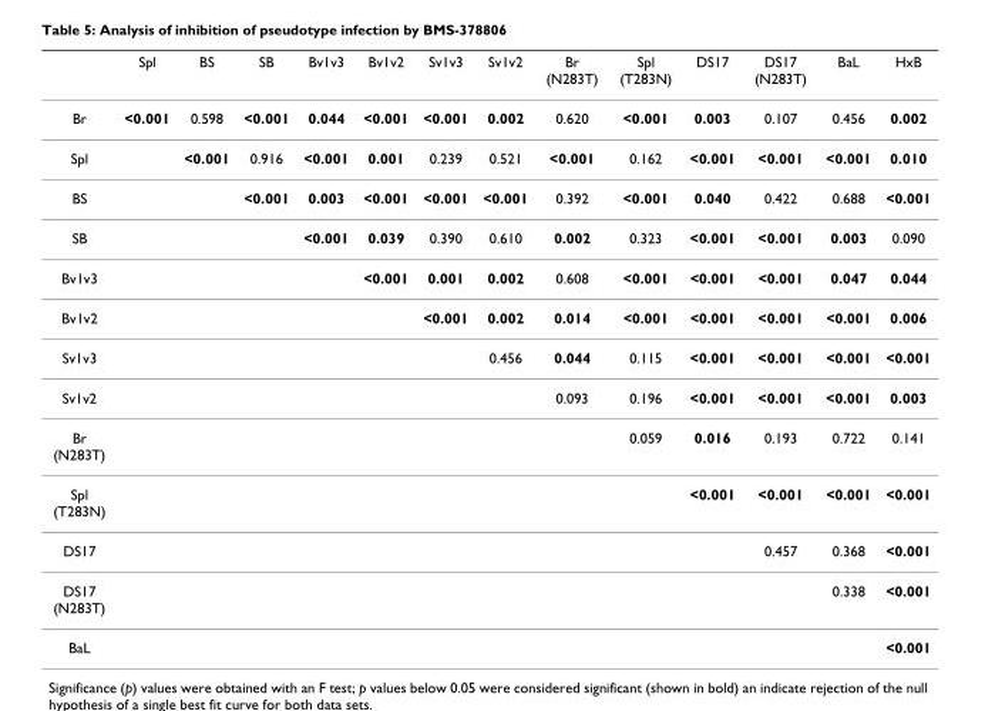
<table><thead><tr><td></td><td>Spl</td><td>BS</td><td>SB</td><td>Bv1v3</td><td>Bv1v2</td><td>Sv1v3</td><td>Sv1v2</td><td>Br (N283T)</td><td>Spl (T283N)</td><td>DS17</td><td>DS17 (N283T)</td><td>BaL</td><td>HxB</td></tr></thead><tbody><tr><td>Br</td><td>&lt;0.001</td><td>0.598</td><td>&lt;0.001</td><td>0.044</td><td>&lt;0.001</td><td>&lt;0.001</td><td>0.002</td><td>0.620</td><td>&lt;0.001</td><td>0.003</td><td>0.107</td><td>0.456</td><td>0.002</td></tr><tr><td>Spl</td><td></td><td>&lt;0.001</td><td>0.916</td><td>&lt;0.001</td><td>0.001</td><td>0.239</td><td>0.521</td><td>&lt;0.001</td><td>0.162</td><td>&lt;0.001</td><td>&lt;0.001</td><td>&lt;0.001</td><td>0.010</td></tr><tr><td>BS</td><td></td><td></td><td>&lt;0.001</td><td>0.003</td><td>&lt;0.001</td><td>&lt;0.001</td><td>&lt;0.001</td><td>0.392</td><td>&lt;0.001</td><td>0.040</td><td>0.422</td><td>0.688</td><td>&lt;0.001</td></tr><tr><td>SB</td><td></td><td></td><td></td><td>&lt;0.001</td><td>0.039</td><td>0.390</td><td>0.610</td><td>0.002</td><td>0.323</td><td>&lt;0.001</td><td>&lt;0.001</td><td>0.003</td><td>0.090</td></tr><tr><td>Bv1v3</td><td></td><td></td><td></td><td></td><td>&lt;0.001</td><td>0.001</td><td>0.002</td><td>0.608</td><td>&lt;0.001</td><td>&lt;0.001</td><td>&lt;0.001</td><td>0.047</td><td>0.044</td></tr><tr><td>Bv1v2</td><td></td><td></td><td></td><td></td><td></td><td>&lt;0.001</td><td>0.002</td><td>0.014</td><td>&lt;0.001</td><td>&lt;0.001</td><td>&lt;0.001</td><td>&lt;0.001</td><td>0.006</td></tr><tr><td>Sv1v3</td><td></td><td></td><td></td><td></td><td></td><td></td><td>0.456</td><td>0.044</td><td>0.115</td><td>&lt;0.001</td><td>&lt;0.001</td><td>&lt;0.001</td><td>&lt;0.001</td></tr><tr><td>Sv1v2</td><td></td><td></td><td></td><td></td><td></td><td></td><td></td><td>0.093</td><td>0.196</td><td>&lt;0.001</td><td>&lt;0.001</td><td>&lt;0.001</td><td>0.003</td></tr><tr><td>Br (N283T)</td><td></td><td></td><td></td><td></td><td></td><td></td><td></td><td></td><td>0.059</td><td>0.016</td><td>0.193</td><td>0.722</td><td>0.141</td></tr><tr><td>Spl (T283N)</td><td></td><td></td><td></td><td></td><td></td><td></td><td></td><td></td><td></td><td>&lt;0.001</td><td>&lt;0.001</td><td>&lt;0.001</td><td>&lt;0.001</td></tr><tr><td>DS17</td><td></td><td></td><td></td><td></td><td></td><td></td><td></td><td></td><td></td><td></td><td>0.457</td><td>0.368</td><td>&lt;0.001</td></tr><tr><td>DS17 (N283T)</td><td></td><td></td><td></td><td></td><td></td><td></td><td></td><td></td><td></td><td></td><td></td><td>0.338</td><td>&lt;0.001</td></tr><tr><td>BaL</td><td></td><td></td><td></td><td></td><td></td><td></td><td></td><td></td><td></td><td></td><td></td><td></td><td>&lt;0.001</td></tr></tbody></table>